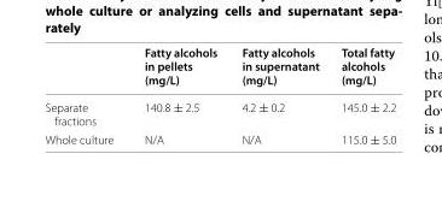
<table><thead><tr><td></td><td>Fatty alcohols in pellets (mg/L)</td><td>Fatty alcohols in supernatant (mg/L)</td><td>Total fatty alcohols (mg/L)</td></tr></thead><tbody><tr><td>Separate fractions</td><td>140.8 ± 2.5</td><td>4.2 ± 0.2</td><td>145.0 ± 2.2</td></tr><tr><td>Whole culture</td><td>N/A</td><td>N/A</td><td>115.0 ± 5.0</td></tr></tbody></table>